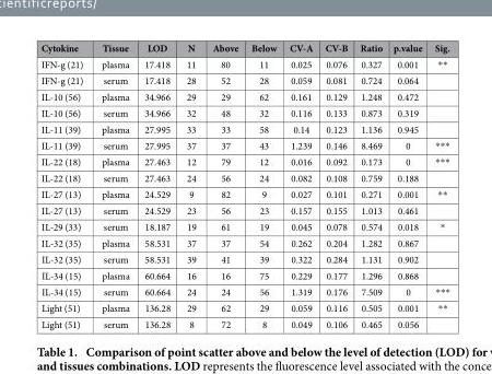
<table><thead><tr><td>Cytokine</td><td>Tissue</td><td>LOD</td><td>N</td><td>Above</td><td>Below</td><td>CV-A</td><td>CV-B</td><td>Ratio</td><td>p.value</td><td>Sig.</td></tr></thead><tbody><tr><td>IFN-g (21)</td><td>plasma</td><td>17.418</td><td>11</td><td>80</td><td>11</td><td>0.025</td><td>0.076</td><td>0.327</td><td>0.001</td><td>* *</td></tr><tr><td>IFN-g (21)</td><td>serum</td><td>17.418</td><td>28</td><td>52</td><td>28</td><td>0.059</td><td>0.081</td><td>0.724</td><td>0.064</td><td></td></tr><tr><td>IL-10 (56)</td><td>plasma</td><td>34.966</td><td>29</td><td>29</td><td>62</td><td>0.161</td><td>0.129</td><td>1.248</td><td>0.472</td><td></td></tr><tr><td>IL-10 (56)</td><td>serum</td><td>34.966</td><td>32</td><td>48</td><td>32</td><td>0.116</td><td>0.133</td><td>0.873</td><td>0.319</td><td></td></tr><tr><td>IL-11 (39)</td><td>plasma</td><td>27.995</td><td>33</td><td>33</td><td>58</td><td>0.14</td><td>0.123</td><td>1.136</td><td>0.945</td><td></td></tr><tr><td>IL-11 (39)</td><td>serum</td><td>27.995</td><td>37</td><td>37</td><td>43</td><td>1.239</td><td>0.146</td><td>8.469</td><td>0</td><td>* * *</td></tr><tr><td>IL-22 (18)</td><td>plasma</td><td>27.463</td><td>12</td><td>79</td><td>12</td><td>0.016</td><td>0.092</td><td>0.173</td><td>0</td><td>* * *</td></tr><tr><td>IL-22 (18)</td><td>serum</td><td>27.463</td><td>24</td><td>56</td><td>24</td><td>0.082</td><td>0.108</td><td>0.759</td><td>0.188</td><td></td></tr><tr><td>IL-27 (13)</td><td>plasma</td><td>24.529</td><td>9</td><td>82</td><td>9</td><td>0.027</td><td>0.101</td><td>0.271</td><td>0.001</td><td>* *</td></tr><tr><td>IL-27 (13)</td><td>serum</td><td>24.529</td><td>23</td><td>56</td><td>23</td><td>0.157</td><td>0.155</td><td>1.013</td><td>0.461</td><td></td></tr><tr><td>IL-29 (33)</td><td>serum</td><td>18.187</td><td>19</td><td>61</td><td>19</td><td>0.045</td><td>0.078</td><td>0.574</td><td>0.018</td><td>*</td></tr><tr><td>IL-32 (35)</td><td>plasma</td><td>58.531</td><td>37</td><td>37</td><td>54</td><td>0.262</td><td>0.204</td><td>1.282</td><td>0.867</td><td></td></tr><tr><td>IL-32 (35)</td><td>serum</td><td>58.531</td><td>39</td><td>41</td><td>39</td><td>0.322</td><td>0.284</td><td>1.131</td><td>0.902</td><td></td></tr><tr><td>IL-34 (15)</td><td>plasma</td><td>60.664</td><td>16</td><td>16</td><td>75</td><td>0.229</td><td>0.177</td><td>1.296</td><td>0.868</td><td></td></tr><tr><td>IL-34 (15)</td><td>serum</td><td>60.664</td><td>24</td><td>24</td><td>56</td><td>1.319</td><td>0.176</td><td>7.509</td><td>0</td><td>* * *</td></tr><tr><td>Light (51)</td><td>plasma</td><td>136.28</td><td>29</td><td>62</td><td>29</td><td>0.059</td><td>0.116</td><td>0.505</td><td>0.001</td><td>* *</td></tr><tr><td>Light (51)</td><td>serum</td><td>136.28</td><td>8</td><td>72</td><td>8</td><td>0.049</td><td>0.106</td><td>0.465</td><td>0.056</td><td></td></tr></tbody></table>